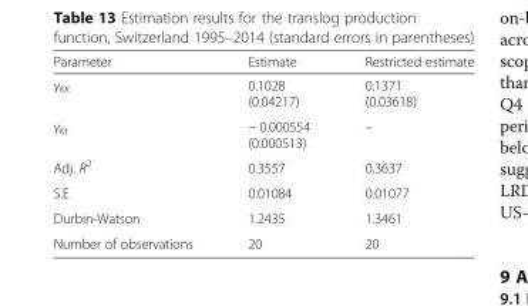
<table><thead><tr><td>Parameter</td><td>Estimate</td><td>Restricted estimate</td></tr></thead><tbody><tr><td>γ<sub>KK</sub></td><td>0.1028 (0.04217)</td><td>0.1371 (0.03618)</td></tr><tr><td>γ<sub>Kt</sub></td><td>− 0.000554 (0.000513)</td><td>–</td></tr><tr><td>Adj. R<sup>2</sup></td><td>0.3557</td><td>0.3637</td></tr><tr><td>S.E</td><td>0.01084</td><td>0.01077</td></tr><tr><td>Durbin-Watson</td><td>1.2435</td><td>1.3461</td></tr><tr><td>Number of observations</td><td>20</td><td>20</td></tr></tbody></table>